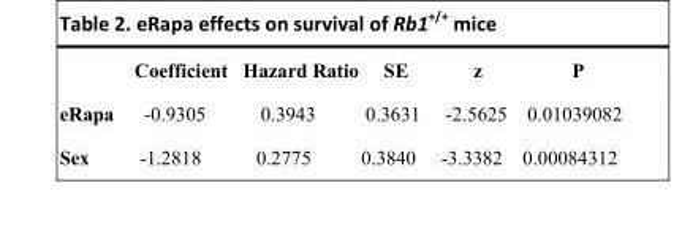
<table><thead><tr><td></td><td>Coefficient</td><td>Hazard Ratio</td><td>SE</td><td>z</td><td>P</td></tr></thead><tbody><tr><td>eRapa</td><td>-0.9305</td><td>0.3943</td><td>0.3631</td><td>-2.5625</td><td>0.01039082</td></tr><tr><td>Sex</td><td>-1.2818</td><td>0.2775</td><td>0.3840</td><td>-3.3382</td><td>0.00084312</td></tr></tbody></table>